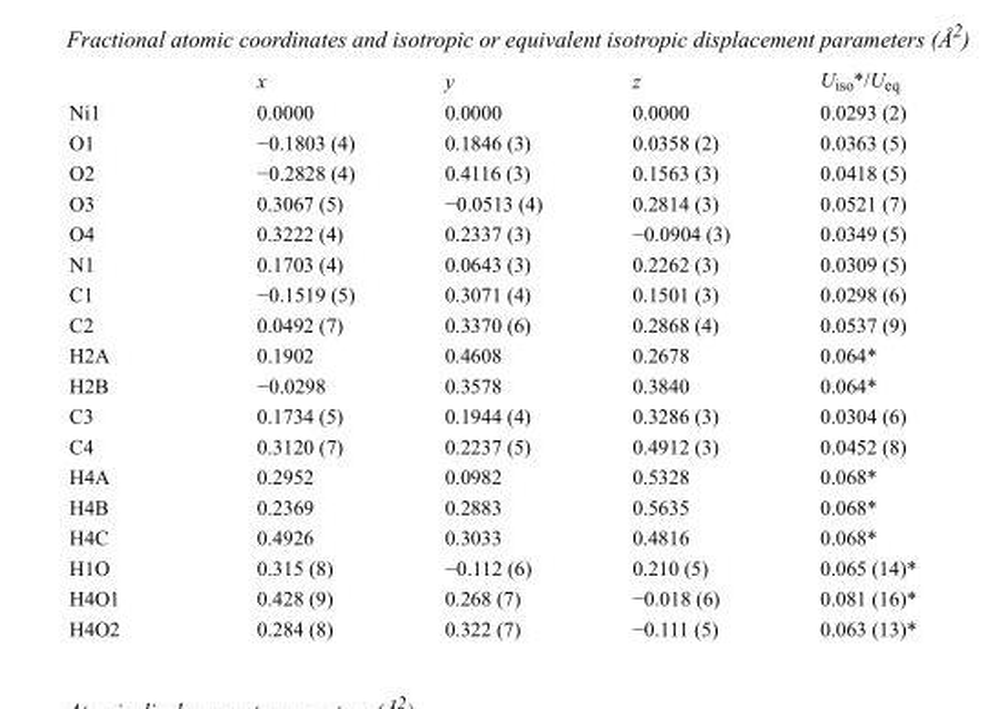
<table><thead><tr><td></td><td>x</td><td>y</td><td>z</td><td>U<sub>iso</sub>*/U<sub>eq</sub></td></tr></thead><tbody><tr><td>Ni1</td><td>0.0000</td><td>0.0000</td><td>0.0000</td><td>0.0293 (2)</td></tr><tr><td>O1</td><td>−0.1803 (4)</td><td>0.1846 (3)</td><td>0.0358 (2)</td><td>0.0363 (5)</td></tr><tr><td>O2</td><td>−0.2828 (4)</td><td>0.4116 (3)</td><td>0.1563 (3)</td><td>0.0418 (5)</td></tr><tr><td>O3</td><td>0.3067 (5)</td><td>−0.0513 (4)</td><td>0.2814 (3)</td><td>0.0521 (7)</td></tr><tr><td>O4</td><td>0.3222 (4)</td><td>0.2337 (3)</td><td>−0.0904 (3)</td><td>0.0349 (5)</td></tr><tr><td>N1</td><td>0.1703 (4)</td><td>0.0643 (3)</td><td>0.2262 (3)</td><td>0.0309 (5)</td></tr><tr><td>C1</td><td>−0.1519 (5)</td><td>0.3071 (4)</td><td>0.1501 (3)</td><td>0.0298 (6)</td></tr><tr><td>C2</td><td>0.0492 (7)</td><td>0.3370 (6)</td><td>0.2868 (4)</td><td>0.0537 (9)</td></tr><tr><td>H2A</td><td>0.1902</td><td>0.4608</td><td>0.2678</td><td>0.064*</td></tr><tr><td>H2B</td><td>−0.0298</td><td>0.3578</td><td>0.3840</td><td>0.064*</td></tr><tr><td>C3</td><td>0.1734 (5)</td><td>0.1944 (4)</td><td>0.3286 (3)</td><td>0.0304 (6)</td></tr><tr><td>C4</td><td>0.3120 (7)</td><td>0.2237 (5)</td><td>0.4912 (3)</td><td>0.0452 (8)</td></tr><tr><td>H4A</td><td>0.2952</td><td>0.0982</td><td>0.5328</td><td>0.068*</td></tr><tr><td>H4B</td><td>0.2369</td><td>0.2883</td><td>0.5635</td><td>0.068*</td></tr><tr><td>H4C</td><td>0.4926</td><td>0.3033</td><td>0.4816</td><td>0.068*</td></tr><tr><td>H1O</td><td>0.315 (8)</td><td>−0.112 (6)</td><td>0.210 (5)</td><td>0.065 (14)*</td></tr><tr><td>H4O1</td><td>0.428 (9)</td><td>0.268 (7)</td><td>−0.018 (6)</td><td>0.081 (16)*</td></tr><tr><td>H4O2</td><td>0.284 (8)</td><td>0.322 (7)</td><td>−0.111 (5)</td><td>0.063 (13)*</td></tr></tbody></table>